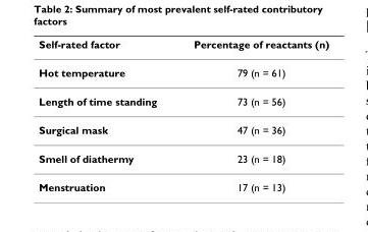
<table><thead><tr><td>Self-rated factor</td><td>Percentage of reactants (n)</td></tr></thead><tbody><tr><td>Hot temperature</td><td>79 (n = 61)</td></tr><tr><td>Length of time standing</td><td>73 (n = 56)</td></tr><tr><td>Surgical mask</td><td>47 (n = 36)</td></tr><tr><td>Smell of diathermy</td><td>23 (n = 18)</td></tr><tr><td>Menstruation</td><td>17 (n = 13)</td></tr></tbody></table>